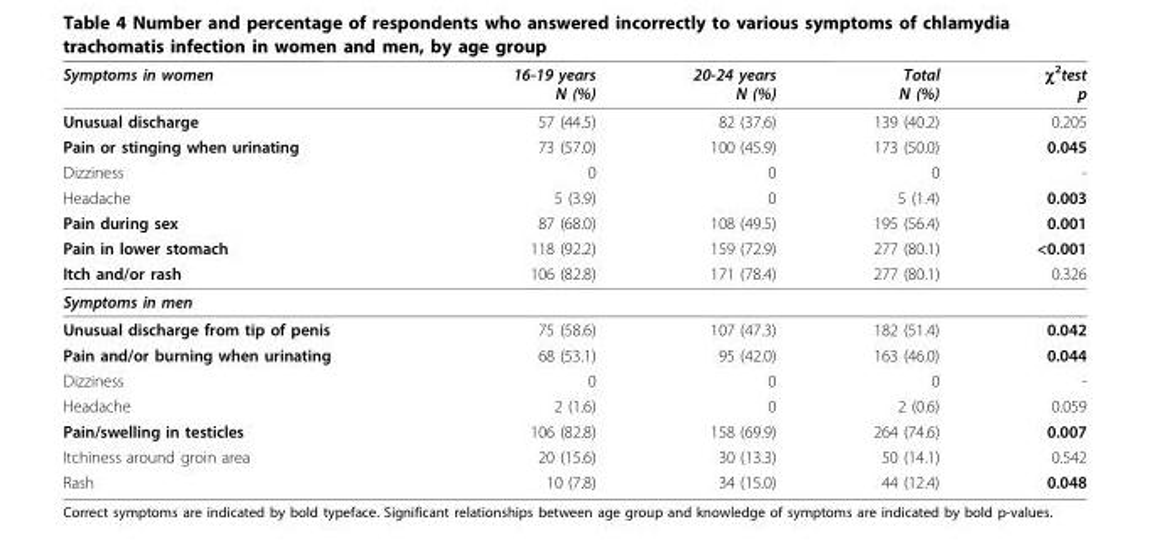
<table><thead><tr><td>Symptoms in women</td><td>16-19 years N (%)</td><td>20-24 years N (%)</td><td>Total N (%)</td><td>χ<sup>2</sup>test p</td></tr></thead><tbody><tr><td>Unusual discharge</td><td>57 (44.5)</td><td>82 (37.6)</td><td>139 (40.2)</td><td>0.205</td></tr><tr><td>Pain or stinging when urinating</td><td>73 (57.0)</td><td>100 (45.9)</td><td>173 (50.0)</td><td>0.045</td></tr><tr><td>Dizziness</td><td>0</td><td>0</td><td>0</td><td>-</td></tr><tr><td>Headache</td><td>5 (3.9)</td><td>0</td><td>5 (1.4)</td><td>0.003</td></tr><tr><td>Pain during sex</td><td>87 (68.0)</td><td>108 (49.5)</td><td>195 (56.4)</td><td>0.001</td></tr><tr><td>Pain in lower stomach</td><td>118 (92.2)</td><td>159 (72.9)</td><td>277 (80.1)</td><td>&lt;0.001</td></tr><tr><td>Itch and/or rash</td><td>106 (82.8)</td><td>171 (78.4)</td><td>277 (80.1)</td><td>0.326</td></tr><tr><td colspan="5">Symptoms in men</td></tr><tr><td>Unusual discharge from tip of penis</td><td>75 (58.6)</td><td>107 (47.3)</td><td>182 (51.4)</td><td>0.042</td></tr><tr><td>Pain and/or burning when urinating</td><td>68 (53.1)</td><td>95 (42.0)</td><td>163 (46.0)</td><td>0.044</td></tr><tr><td>Dizziness</td><td>0</td><td>0</td><td>0</td><td>-</td></tr><tr><td>Headache</td><td>2 (1.6)</td><td>0</td><td>2 (0.6)</td><td>0.059</td></tr><tr><td>Pain/swelling in testicles</td><td>106 (82.8)</td><td>158 (69.9)</td><td>264 (74.6)</td><td>0.007</td></tr><tr><td>Itchiness around groin area</td><td>20 (15.6)</td><td>30 (13.3)</td><td>50 (14.1)</td><td>0.542</td></tr><tr><td>Rash</td><td>10 (7.8)</td><td>34 (15.0)</td><td>44 (12.4)</td><td>0.048</td></tr></tbody></table>